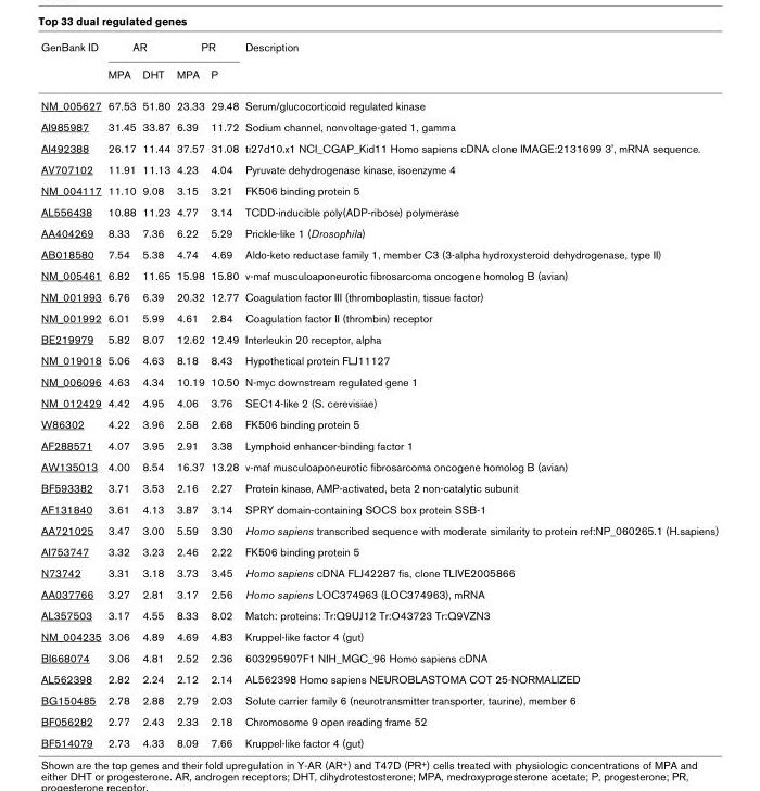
<table><thead><tr><td rowspan="2">GenBank ID</td><td colspan="2">AR</td><td colspan="2">PR</td><td rowspan="2">Description</td></tr><tr><td>MPA</td><td>DHT</td><td>MPA</td><td>P</td></tr></thead><tbody><tr><td>NM_005627</td><td>67.53</td><td>51.80</td><td>23.33</td><td>29.48</td><td>Serum/glucocorticoid regulated kinase</td></tr><tr><td>AI985987</td><td>31.45</td><td>33.87</td><td>6.39</td><td>11.72</td><td>Sodium channel, nonvoltage-gated 1, gamma</td></tr><tr><td>AI492388</td><td>26.17</td><td>11.44</td><td>37.57</td><td>31.08</td><td>ti27d10.x1 NCI_CGAP_Kid11 Homo sapiens cDNA clone IMAGE:2131699 3&#x27;, mRNA sequence.</td></tr><tr><td>AV707102</td><td>11.91</td><td>11.13</td><td>4.23</td><td>4.04</td><td>Pyruvate dehydrogenase kinase, isoenzyme 4</td></tr><tr><td>NM_004117</td><td>11.10</td><td>9.08</td><td>3.15</td><td>3.21</td><td>FK506 binding protein 5</td></tr><tr><td>AL556438</td><td>10.88</td><td>11.23</td><td>4.77</td><td>3.14</td><td>TCDD-inducible poly(ADP-ribose) polymerase</td></tr><tr><td>AA404269</td><td>8.33</td><td>7.36</td><td>6.22</td><td>5.29</td><td>Prickle-like 1 (Drosophila)</td></tr><tr><td>AB018580</td><td>7.54</td><td>5.38</td><td>4.74</td><td>4.69</td><td>Aldo-keto reductase family 1, member C3 (3-alpha hydroxysteroid dehydrogenase, type II)</td></tr><tr><td>NM_005461</td><td>6.82</td><td>11.65</td><td>15.98</td><td>15.80</td><td>v-maf musculoaponeurotic fibrosarcoma oncogene homolog B (avian)</td></tr><tr><td>NM_001993</td><td>6.76</td><td>6.39</td><td>20.32</td><td>12.77</td><td>Coagulation factor III (thromboplastin, tissue factor)</td></tr><tr><td>NM_001992</td><td>6.01</td><td>5.99</td><td>4.61</td><td>2.84</td><td>Coagulation factor II (thrombin) receptor</td></tr><tr><td>BE219979</td><td>5.82</td><td>8.07</td><td>12.62</td><td>12.49</td><td>Interleukin 20 receptor, alpha</td></tr><tr><td>NM_019018</td><td>5.06</td><td>4.63</td><td>8.18</td><td>8.43</td><td>Hypothetical protein FLJ11127</td></tr><tr><td>NM_006096</td><td>4.63</td><td>4.34</td><td>10.19</td><td>10.50</td><td>N-myc downstream regulated gene 1</td></tr><tr><td>NM_012429</td><td>4.42</td><td>4.95</td><td>4.06</td><td>3.76</td><td>SEC14-like 2 (S. cerevisiae)</td></tr><tr><td>W86302</td><td>4.22</td><td>3.96</td><td>2.58</td><td>2.68</td><td>FK506 binding protein 5</td></tr><tr><td>AF288571</td><td>4.07</td><td>3.95</td><td>2.91</td><td>3.38</td><td>Lymphoid enhancer-binding factor 1</td></tr><tr><td>AW135013</td><td>4.00</td><td>8.54</td><td>16.37</td><td>13.28</td><td>v-maf musculoaponeurotic fibrosarcoma oncogene homolog B (avian)</td></tr><tr><td>BF593382</td><td>3.71</td><td>3.53</td><td>2.16</td><td>2.27</td><td>Protein kinase, AMP-activated, beta 2 non-catalytic subunit</td></tr><tr><td>AF131840</td><td>3.61</td><td>4.13</td><td>3.87</td><td>3.14</td><td>SPRY domain-containing SOCS box protein SSB-1</td></tr><tr><td>AA721025</td><td>3.47</td><td>3.00</td><td>5.59</td><td>3.30</td><td>Homo sapiens transcribed sequence with moderate similarity to protein ref:NP_060265.1 (H.sapiens)</td></tr><tr><td>AI753747</td><td>3.32</td><td>3.23</td><td>2.46</td><td>2.22</td><td>FK506 binding protein 5</td></tr><tr><td>N73742</td><td>3.31</td><td>3.18</td><td>3.73</td><td>3.45</td><td>Homo sapiens cDNA FLJ42287 fis, clone TLIVE2005866</td></tr><tr><td>AA037766</td><td>3.27</td><td>2.81</td><td>3.17</td><td>2.56</td><td>Homo sapiens LOC374963 (LOC374963), mRNA</td></tr><tr><td>AL357503</td><td>3.17</td><td>4.55</td><td>8.33</td><td>8.02</td><td>Match: proteins: Tr:Q9UJ12 Tr:O43723 Tr:Q9VZN3</td></tr><tr><td>NM_004235</td><td>3.06</td><td>4.89</td><td>4.69</td><td>4.83</td><td>Kruppel-like factor 4 (gut)</td></tr><tr><td>BI668074</td><td>3.06</td><td>4.81</td><td>2.52</td><td>2.36</td><td>603295907F1 NIH_MGC_96 Homo sapiens cDNA</td></tr><tr><td>AL562398</td><td>2.82</td><td>2.24</td><td>2.12</td><td>2.14</td><td>AL562398 Homo sapiens NEUROBLASTOMA COT 25-NORMALIZED</td></tr><tr><td>BG150485</td><td>2.78</td><td>2.88</td><td>2.79</td><td>2.03</td><td>Solute carrier family 6 (neurotransmitter transporter, taurine), member 6</td></tr><tr><td>BF056282</td><td>2.77</td><td>2.43</td><td>2.33</td><td>2.18</td><td>Chromosome 9 open reading frame 52</td></tr><tr><td>BF514079</td><td>2.73</td><td>4.33</td><td>8.09</td><td>7.66</td><td>Kruppel-like factor 4 (gut)</td></tr></tbody></table>